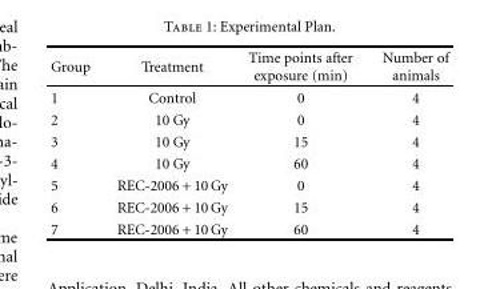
<table><thead><tr><td>Group</td><td>Treatment</td><td>Time points after exposure (min)</td><td>Number of animals</td></tr></thead><tbody><tr><td>1</td><td>Control</td><td>0</td><td>4</td></tr><tr><td>2</td><td>10 Gy</td><td>0</td><td>4</td></tr><tr><td>3</td><td>10 Gy</td><td>15</td><td>4</td></tr><tr><td>4</td><td>10 Gy</td><td>60</td><td>4</td></tr><tr><td>5</td><td>REC-2006 + 10 Gy</td><td>0</td><td>4</td></tr><tr><td>6</td><td>REC-2006 + 10 Gy</td><td>15</td><td>4</td></tr><tr><td>7</td><td>REC-2006 + 10 Gy</td><td>60</td><td>4</td></tr></tbody></table>